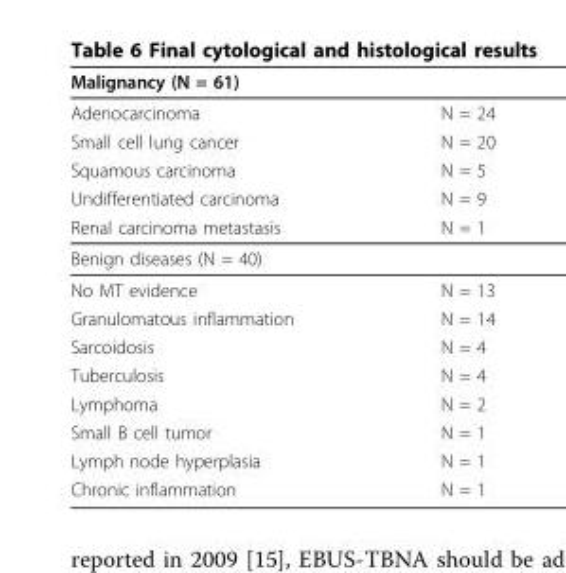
<table><thead><tr><td colspan="2">Malignancy (N = 61)</td></tr><tr><td>Adenocarcinoma</td><td>N = 24</td></tr></thead><tbody><tr><td>Small cell lung cancer</td><td>N = 20</td></tr><tr><td>Squamous carcinoma</td><td>N = 5</td></tr><tr><td>Undifferentiated carcinoma</td><td>N = 9</td></tr><tr><td>Renal carcinoma metastasis</td><td>N = 1</td></tr><tr><td colspan="2">Benign diseases (N = 40)</td></tr><tr><td>No MT evidence</td><td>N = 13</td></tr><tr><td>Granulomatous inflammation</td><td>N = 14</td></tr><tr><td>Sarcoidosis</td><td>N = 4</td></tr><tr><td>Tuberculosis</td><td>N = 4</td></tr><tr><td>Lymphoma</td><td>N = 2</td></tr><tr><td>Small B cell tumor</td><td>N = 1</td></tr><tr><td>Lymph node hyperplasia</td><td>N = 1</td></tr><tr><td>Chronic inflammation</td><td>N = 1</td></tr></tbody></table>